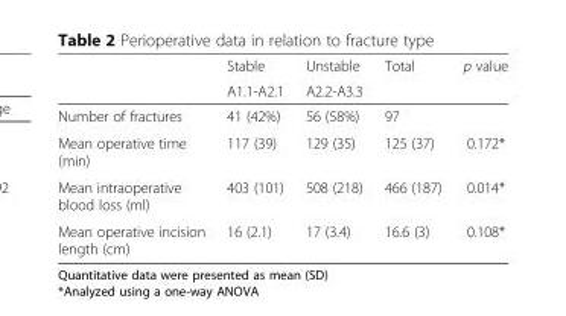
<table><thead><tr><td rowspan="2"></td><td rowspan="2">Stable A1.1-A2.1</td><td rowspan="2">Unstable A2.2-A3.3</td><td rowspan="2">Total</td><td rowspan="2">p value</td></tr><tr></tr></thead><tbody><tr><td>Number of fractures</td><td>41 (42%)</td><td>56 (58%)</td><td>97</td><td></td></tr><tr><td>Mean operative time (min)</td><td>117 (39)</td><td>129 (35)</td><td>125 (37)</td><td>0.172*</td></tr><tr><td>Mean intraoperative blood loss (ml)</td><td>403 (101)</td><td>508 (218)</td><td>466 (187)</td><td>0.014*</td></tr><tr><td>Mean operative incision length (cm)</td><td>16 (2.1)</td><td>17 (3.4)</td><td>16.6 (3)</td><td>0.108*</td></tr></tbody></table>